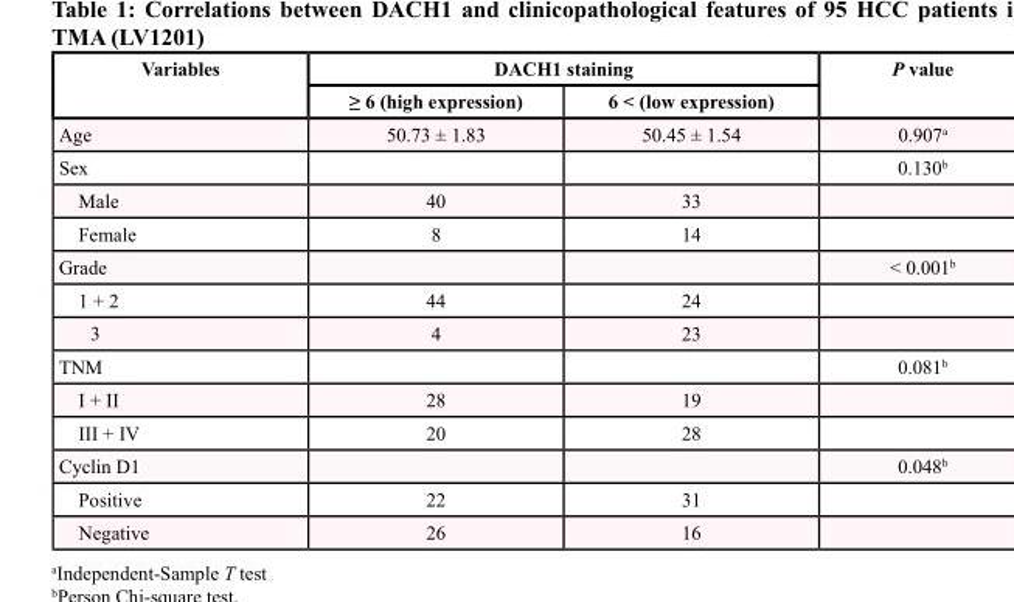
<table><thead><tr><td rowspan="2">Variables</td><td colspan="2">DACH1 staining</td><td rowspan="2">P value</td></tr><tr><td>≥ 6 (high expression)</td><td>6 &lt; (low expression)</td></tr></thead><tbody><tr><td>Age</td><td>50.73 ± 1.83</td><td>50.45 ± 1.54</td><td>0.907<sup>a</sup></td></tr><tr><td>Sex</td><td></td><td></td><td>0.130<sup>b</sup></td></tr><tr><td>Male</td><td>40</td><td>33</td><td></td></tr><tr><td>Female</td><td>8</td><td>14</td><td></td></tr><tr><td>Grade</td><td></td><td></td><td>&lt; 0.001<sup>b</sup></td></tr><tr><td>1 + 2</td><td>44</td><td>24</td><td></td></tr><tr><td>3</td><td>4</td><td>23</td><td></td></tr><tr><td>TNM</td><td></td><td></td><td>0.081<sup>b</sup></td></tr><tr><td>I + II</td><td>28</td><td>19</td><td></td></tr><tr><td>III + IV</td><td>20</td><td>28</td><td></td></tr><tr><td>Cyclin D1</td><td></td><td></td><td>0.048<sup>b</sup></td></tr><tr><td>Positive</td><td>22</td><td>31</td><td></td></tr><tr><td>Negative</td><td>26</td><td>16</td><td></td></tr></tbody></table>